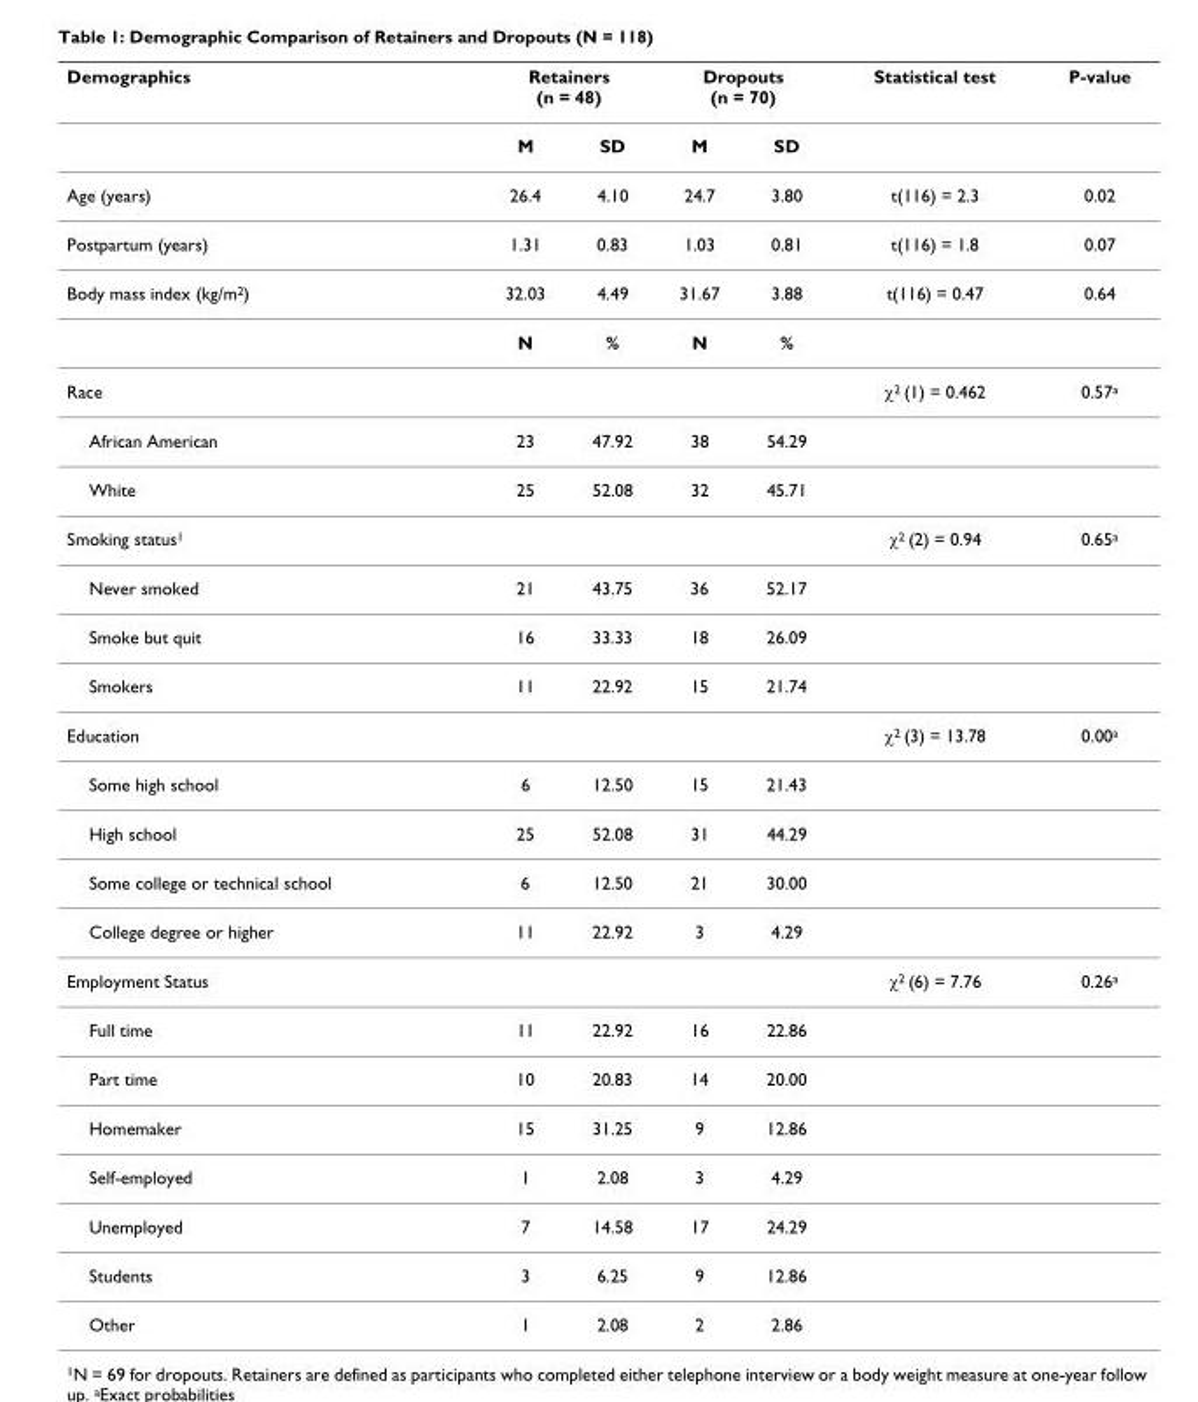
<table><thead><tr><td rowspan="2">Demographics</td><td colspan="2">Retainers (n = 48)</td><td colspan="2">Dropouts (n = 70)</td><td rowspan="2">Statistical test</td><td rowspan="2">P-value</td></tr><tr><td>M</td><td>SD</td><td>M</td><td>SD</td></tr></thead><tbody><tr><td>Age (years)</td><td>26.4</td><td>4.10</td><td>24.7</td><td>3.80</td><td>t(116) = 2.3</td><td>0.02</td></tr><tr><td>Postpartum (years)</td><td>1.31</td><td>0.83</td><td>1.03</td><td>0.81</td><td>t(116) = 1.8</td><td>0.07</td></tr><tr><td rowspan="2">Body mass index (kg/m<sup>2</sup>)</td><td>32.03</td><td>4.49</td><td>31.67</td><td>3.88</td><td>t(116) = 0.47</td><td>0.64</td></tr><tr><td>N</td><td>%</td><td>N</td><td>%</td><td></td><td></td></tr><tr><td>Race</td><td></td><td></td><td></td><td></td><td>χ<sup>2</sup> (1) = 0.462</td><td>0.57<sup>a</sup></td></tr><tr><td>African American</td><td>23</td><td>47.92</td><td>38</td><td>54.29</td><td></td><td></td></tr><tr><td>White</td><td>25</td><td>52.08</td><td>32</td><td>45.71</td><td></td><td></td></tr><tr><td>Smoking status<sup>1</sup></td><td></td><td></td><td></td><td></td><td>χ<sup>2</sup> (2) = 0.94</td><td>0.65<sup>a</sup></td></tr><tr><td>Never smoked</td><td>21</td><td>43.75</td><td>36</td><td>52.17</td><td></td><td></td></tr><tr><td>Smoke but quit</td><td>16</td><td>33.33</td><td>18</td><td>26.09</td><td></td><td></td></tr><tr><td>Smokers</td><td>11</td><td>22.92</td><td>15</td><td>21.74</td><td></td><td></td></tr><tr><td>Education</td><td></td><td></td><td></td><td></td><td>χ<sup>2</sup> (3) = 13.78</td><td>0.00<sup>a</sup></td></tr><tr><td>Some high school</td><td>6</td><td>12.50</td><td>15</td><td>21.43</td><td></td><td></td></tr><tr><td>High school</td><td>25</td><td>52.08</td><td>31</td><td>44.29</td><td></td><td></td></tr><tr><td>Some college or technical school</td><td>6</td><td>12.50</td><td>21</td><td>30.00</td><td></td><td></td></tr><tr><td>College degree or higher</td><td>11</td><td>22.92</td><td>3</td><td>4.29</td><td></td><td></td></tr><tr><td>Employment Status</td><td></td><td></td><td></td><td></td><td>χ<sup>2</sup> (6) = 7.76</td><td>0.26<sup>a</sup></td></tr><tr><td>Full time</td><td>11</td><td>22.92</td><td>16</td><td>22.86</td><td></td><td></td></tr><tr><td>Part time</td><td>10</td><td>20.83</td><td>14</td><td>20.00</td><td></td><td></td></tr><tr><td>Homemaker</td><td>15</td><td>31.25</td><td>9</td><td>12.86</td><td></td><td></td></tr><tr><td>Self-employed</td><td>1</td><td>2.08</td><td>3</td><td>4.29</td><td></td><td></td></tr><tr><td>Unemployed</td><td>7</td><td>14.58</td><td>17</td><td>24.29</td><td></td><td></td></tr><tr><td>Students</td><td>3</td><td>6.25</td><td>9</td><td>12.86</td><td></td><td></td></tr><tr><td>Other</td><td>1</td><td>2.08</td><td>2</td><td>2.86</td><td></td><td></td></tr></tbody></table>